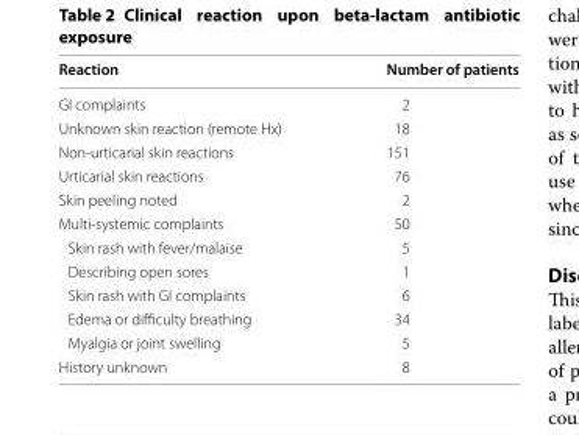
<table><thead><tr><td>Reaction</td><td>Number of patients</td></tr></thead><tbody><tr><td>GI complaints</td><td>2</td></tr><tr><td>Unknown skin reaction (remote Hx)</td><td>18</td></tr><tr><td>Non-urticarial skin reactions</td><td>151</td></tr><tr><td>Urticarial skin reactions</td><td>76</td></tr><tr><td>Skin peeling noted</td><td>2</td></tr><tr><td>Multi-systemic complaints</td><td>50</td></tr><tr><td>Skin rash with fever/malaise</td><td>5</td></tr><tr><td>Describing open sores</td><td>1</td></tr><tr><td>Skin rash with GI complaints</td><td>6</td></tr><tr><td>Edema or difficulty breathing</td><td>34</td></tr><tr><td>Myalgia or joint swelling</td><td>5</td></tr><tr><td>History unknown</td><td>8</td></tr></tbody></table>